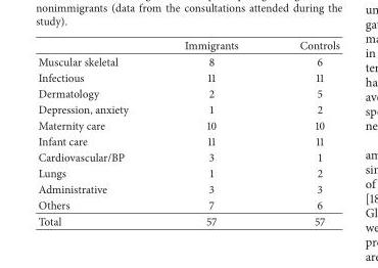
<table><thead><tr><td></td><td>Immigrants</td><td>Controls</td></tr></thead><tbody><tr><td>Muscular skeletal</td><td>8</td><td>6</td></tr><tr><td>Infectious</td><td>11</td><td>11</td></tr><tr><td>Dermatology</td><td>2</td><td>5</td></tr><tr><td>Depression, anxiety</td><td>1</td><td>2</td></tr><tr><td>Maternity care</td><td>10</td><td>10</td></tr><tr><td>Infant care</td><td>11</td><td>11</td></tr><tr><td>Cardiovascular/BP</td><td>3</td><td>1</td></tr><tr><td>Lungs</td><td>1</td><td>2</td></tr><tr><td>Administrative</td><td>3</td><td>3</td></tr><tr><td>Others</td><td>7</td><td>6</td></tr><tr><td>Total</td><td>57</td><td>57</td></tr></tbody></table>